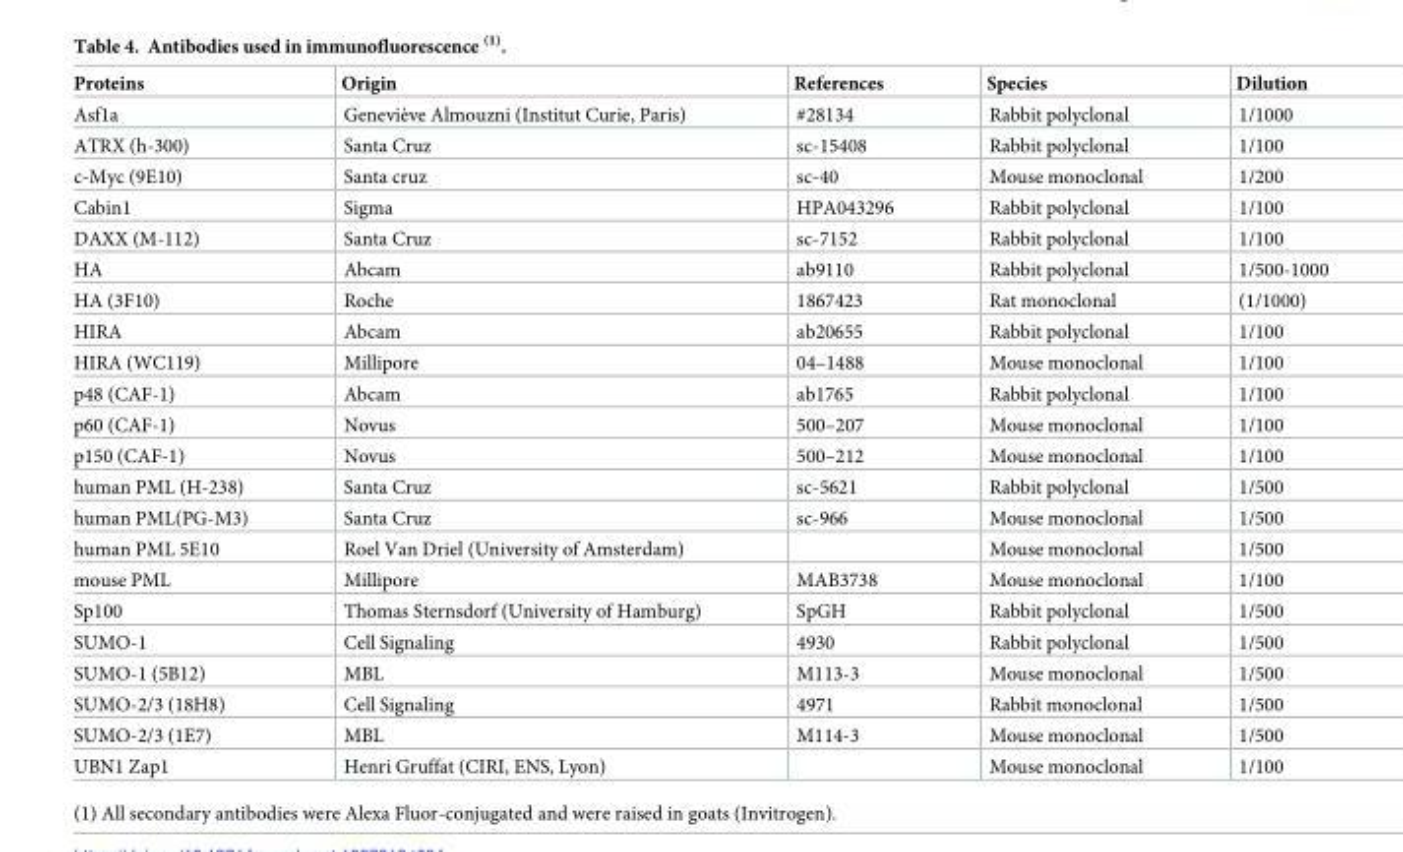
<table><thead><tr><td>Proteins</td><td>Origin</td><td>References</td><td>Species</td><td>Dilution</td></tr></thead><tbody><tr><td>Asf1a</td><td>Geneviève Almouzni (Institut Curie, Paris)</td><td>#28134</td><td>Rabbit polyclonal</td><td>1/1000</td></tr><tr><td>ATRX (h-300)</td><td>Santa Cruz</td><td>sc-15408</td><td>Rabbit polyclonal</td><td>1/100</td></tr><tr><td>c-Myc (9E10)</td><td>Santa cruz</td><td>sc-40</td><td>Mouse monoclonal</td><td>1/200</td></tr><tr><td>Cabin1</td><td>Sigma</td><td>HPA043296</td><td>Rabbit polyclonal</td><td>1/100</td></tr><tr><td>DAXX (M-112)</td><td>Santa Cruz</td><td>sc-7152</td><td>Rabbit polyclonal</td><td>1/100</td></tr><tr><td>HA</td><td>Abcam</td><td>ab9110</td><td>Rabbit polyclonal</td><td>1/500-1000</td></tr><tr><td>HA (3F10)</td><td>Roche</td><td>1867423</td><td>Rat monoclonal</td><td>(1/1000)</td></tr><tr><td>HIRA</td><td>Abcam</td><td>ab20655</td><td>Rabbit polyclonal</td><td>1/100</td></tr><tr><td>HIRA (WC119)</td><td>Millipore</td><td>04–1488</td><td>Mouse monoclonal</td><td>1/100</td></tr><tr><td>p48 (CAF-1)</td><td>Abcam</td><td>ab1765</td><td>Rabbit polyclonal</td><td>1/100</td></tr><tr><td>p60 (CAF-1)</td><td>Novus</td><td>500–207</td><td>Mouse monoclonal</td><td>1/100</td></tr><tr><td>p150 (CAF-1)</td><td>Novus</td><td>500–212</td><td>Mouse monoclonal</td><td>1/100</td></tr><tr><td>human PML (H-238)</td><td>Santa Cruz</td><td>sc-5621</td><td>Rabbit polyclonal</td><td>1/500</td></tr><tr><td>human PML(PG-M3)</td><td>Santa Cruz</td><td>sc-966</td><td>Mouse monoclonal</td><td>1/500</td></tr><tr><td>human PML 5E10</td><td>Roel Van Driel (University of Amsterdam)</td><td></td><td>Mouse monoclonal</td><td>1/500</td></tr><tr><td>mouse PML</td><td>Millipore</td><td>MAB3738</td><td>Mouse monoclonal</td><td>1/100</td></tr><tr><td>Sp100</td><td>Thomas Sternsdorf (University of Hamburg)</td><td>SpGH</td><td>Rabbit polyclonal</td><td>1/500</td></tr><tr><td>SUMO-1</td><td>Cell Signaling</td><td>4930</td><td>Rabbit polyclonal</td><td>1/500</td></tr><tr><td>SUMO-1 (5B12)</td><td>MBL</td><td>M113-3</td><td>Mouse monoclonal</td><td>1/500</td></tr><tr><td>SUMO-2/3 (18H8)</td><td>Cell Signaling</td><td>4971</td><td>Rabbit monoclonal</td><td>1/500</td></tr><tr><td>SUMO-2/3 (1E7)</td><td>MBL</td><td>M114-3</td><td>Mouse monoclonal</td><td>1/500</td></tr><tr><td>UBN1 Zap1</td><td>Henri Gruffat (CIRI, ENS, Lyon)</td><td></td><td>Mouse monoclonal</td><td>1/100</td></tr></tbody></table>